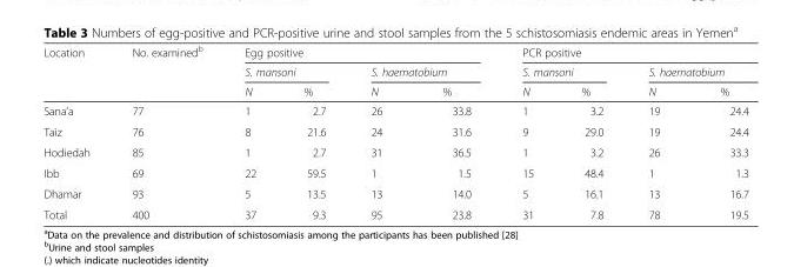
<table><thead><tr><td rowspan="3">Location</td><td rowspan="3">No. examined<sup>b</sup></td><td colspan="4">Egg positive</td><td colspan="4">PCR positive</td></tr><tr><td colspan="2">S. mansoni</td><td colspan="2">S. haematobium</td><td colspan="2">S. mansoni</td><td colspan="2">S. haematobium</td></tr><tr><td>N</td><td>%</td><td>N</td><td>%</td><td>N</td><td>%</td><td>N</td><td>%</td></tr></thead><tbody><tr><td>Sana’a</td><td>77</td><td>1</td><td>2.7</td><td>26</td><td>33.8</td><td>1</td><td>3.2</td><td>19</td><td>24.4</td></tr><tr><td>Taiz</td><td>76</td><td>8</td><td>21.6</td><td>24</td><td>31.6</td><td>9</td><td>29.0</td><td>19</td><td>24.4</td></tr><tr><td>Hodiedah</td><td>85</td><td>1</td><td>2.7</td><td>31</td><td>36.5</td><td>1</td><td>3.2</td><td>26</td><td>33.3</td></tr><tr><td>Ibb</td><td>69</td><td>22</td><td>59.5</td><td>1</td><td>1.5</td><td>15</td><td>48.4</td><td>1</td><td>1.3</td></tr><tr><td>Dhamar</td><td>93</td><td>5</td><td>13.5</td><td>13</td><td>14.0</td><td>5</td><td>16.1</td><td>13</td><td>16.7</td></tr><tr><td>Total</td><td>400</td><td>37</td><td>9.3</td><td>95</td><td>23.8</td><td>31</td><td>7.8</td><td>78</td><td>19.5</td></tr></tbody></table>